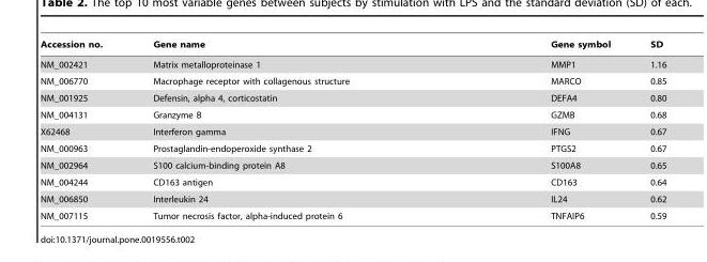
<table><thead><tr><td>Accession no.</td><td>Gene name</td><td>Gene symbol</td><td>SD</td></tr></thead><tbody><tr><td>NM_002421</td><td>Matrix metalloproteinase 1</td><td>MMP1</td><td>1.16</td></tr><tr><td>NM_006770</td><td>Macrophage receptor with collagenous structure</td><td>MARCO</td><td>0.85</td></tr><tr><td>NM_001925</td><td>Defensin, alpha 4, corticostatin</td><td>DEFA4</td><td>0.80</td></tr><tr><td>NM_004131</td><td>Granzyme B</td><td>GZMB</td><td>0.68</td></tr><tr><td>X62468</td><td>Interferon gamma</td><td>IFNG</td><td>0.67</td></tr><tr><td>NM_000963</td><td>Prostaglandin-endoperoxide synthase 2</td><td>PTGS2</td><td>0.67</td></tr><tr><td>NM_002964</td><td>S100 calcium-binding protein A8</td><td>S100A8</td><td>0.65</td></tr><tr><td>NM_004244</td><td>CD163 antigen</td><td>CD163</td><td>0.64</td></tr><tr><td>NM_006850</td><td>Interleukin 24</td><td>IL24</td><td>0.62</td></tr><tr><td>NM_007115</td><td>Tumor necrosis factor, alpha-induced protein 6</td><td>TNFAIP6</td><td>0.59</td></tr></tbody></table>